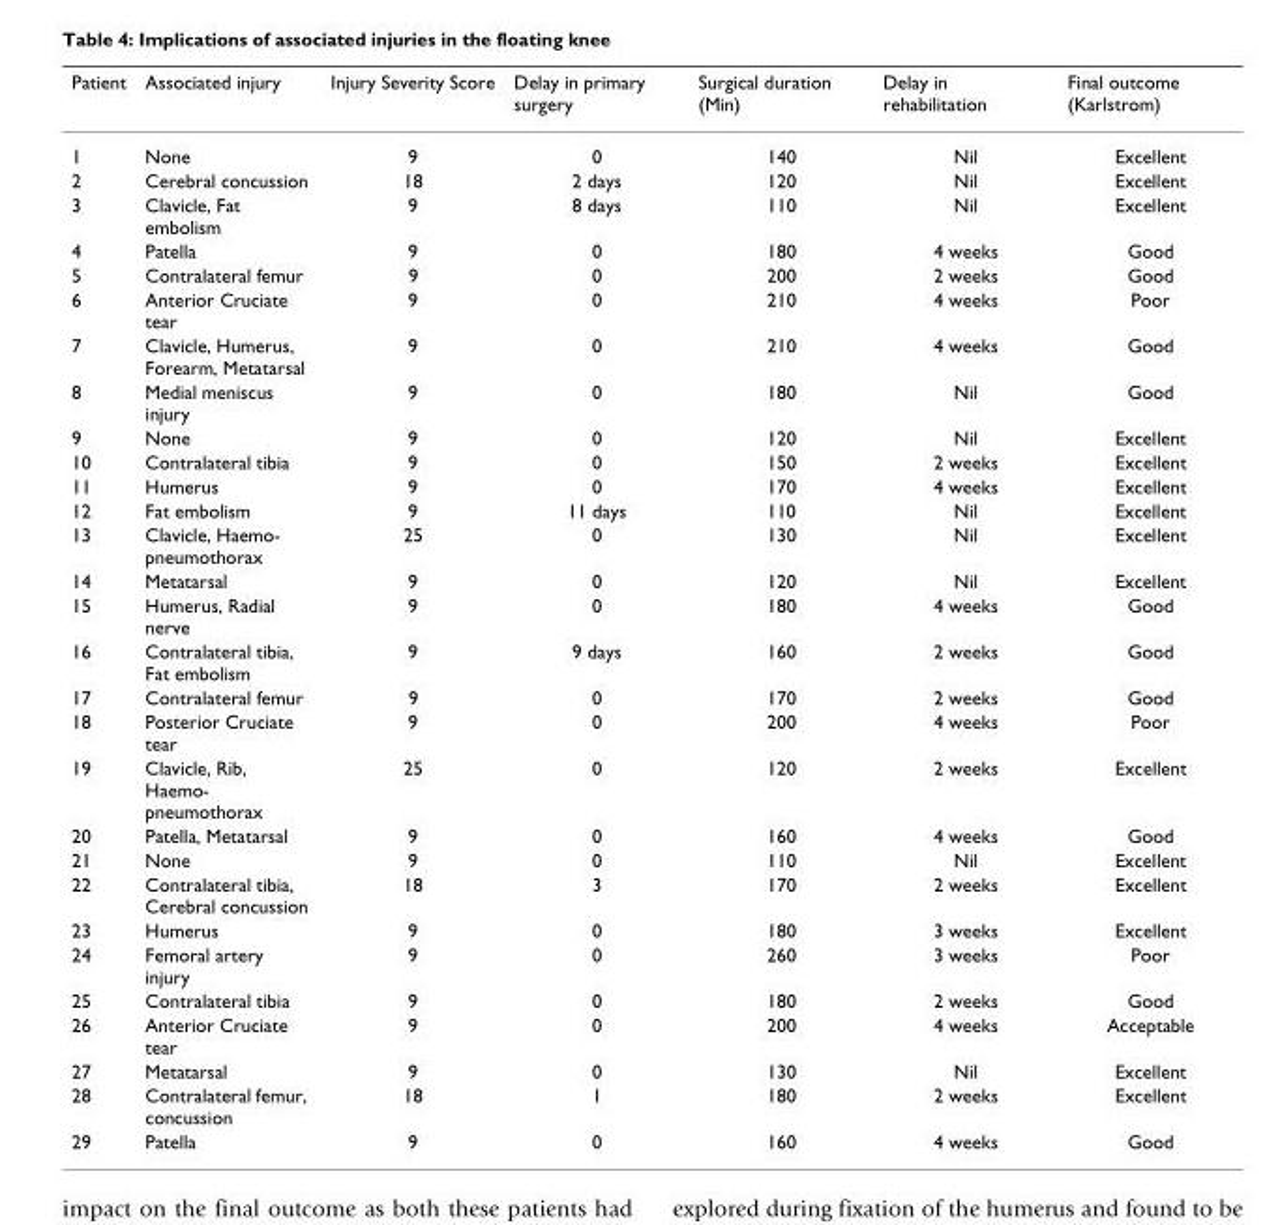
<table><thead><tr><td>Patient</td><td>Associated injury</td><td>Injury Severity Score</td><td>Delay in primary surgery</td><td>Surgical duration (Min)</td><td>Delay in rehabilitation</td><td>Final outcome (Karlstrom)</td></tr></thead><tbody><tr><td>1</td><td>None</td><td>9</td><td>0</td><td>140</td><td>Nil</td><td>Excellent</td></tr><tr><td>2</td><td>Cerebral concussion</td><td>18</td><td>2 days</td><td>120</td><td>Nil</td><td>Excellent</td></tr><tr><td>3</td><td>Clavicle, Fat embolism</td><td>9</td><td>8 days</td><td>110</td><td>Nil</td><td>Excellent</td></tr><tr><td>4</td><td>Patella</td><td>9</td><td>0</td><td>180</td><td>4 weeks</td><td>Good</td></tr><tr><td>5</td><td>Contralateral femur</td><td>9</td><td>0</td><td>200</td><td>2 weeks</td><td>Good</td></tr><tr><td>6</td><td>Anterior Cruciate tear</td><td>9</td><td>0</td><td>210</td><td>4 weeks</td><td>Poor</td></tr><tr><td>7</td><td>Clavicle, Humerus, Forearm, Metatarsal</td><td>9</td><td>0</td><td>210</td><td>4 weeks</td><td>Good</td></tr><tr><td>8</td><td>Medial meniscus injury</td><td>9</td><td>0</td><td>180</td><td>Nil</td><td>Good</td></tr><tr><td>9</td><td>None</td><td>9</td><td>0</td><td>120</td><td>Nil</td><td>Excellent</td></tr><tr><td>10</td><td>Contralateral tibia</td><td>9</td><td>0</td><td>150</td><td>2 weeks</td><td>Excellent</td></tr><tr><td>11</td><td>Humerus</td><td>9</td><td>0</td><td>170</td><td>4 weeks</td><td>Excellent</td></tr><tr><td>12</td><td>Fat embolism</td><td>9</td><td>11 days</td><td>110</td><td>Nil</td><td>Excellent</td></tr><tr><td>13</td><td>Clavicle, Haemo- pneumothorax</td><td>25</td><td>0</td><td>130</td><td>Nil</td><td>Excellent</td></tr><tr><td>14</td><td>Metatarsal</td><td>9</td><td>0</td><td>120</td><td>Nil</td><td>Excellent</td></tr><tr><td>15</td><td>Humerus, Radial nerve</td><td>9</td><td>0</td><td>180</td><td>4 weeks</td><td>Good</td></tr><tr><td>16</td><td>Contralateral tibia, Fat embolism</td><td>9</td><td>9 days</td><td>160</td><td>2 weeks</td><td>Good</td></tr><tr><td>17</td><td>Contralateral femur</td><td>9</td><td>0</td><td>170</td><td>2 weeks</td><td>Good</td></tr><tr><td>18</td><td>Posterior Cruciate tear</td><td>9</td><td>0</td><td>200</td><td>4 weeks</td><td>Poor</td></tr><tr><td>19</td><td>Clavicle, Rib, Haemo- pneumothorax</td><td>25</td><td>0</td><td>120</td><td>2 weeks</td><td>Excellent</td></tr><tr><td>20</td><td>Patella, Metatarsal</td><td>9</td><td>0</td><td>160</td><td>4 weeks</td><td>Good</td></tr><tr><td>21</td><td>None</td><td>9</td><td>0</td><td>110</td><td>Nil</td><td>Excellent</td></tr><tr><td>22</td><td>Contralateral tibia, Cerebral concussion</td><td>18</td><td>3</td><td>170</td><td>2 weeks</td><td>Excellent</td></tr><tr><td>23</td><td>Humerus</td><td>9</td><td>0</td><td>180</td><td>3 weeks</td><td>Excellent</td></tr><tr><td>24</td><td>Femoral artery injury</td><td>9</td><td>0</td><td>260</td><td>3 weeks</td><td>Poor</td></tr><tr><td>25</td><td>Contralateral tibia</td><td>9</td><td>0</td><td>180</td><td>2 weeks</td><td>Good</td></tr><tr><td>26</td><td>Anterior Cruciate tear</td><td>9</td><td>0</td><td>200</td><td>4 weeks</td><td>Acceptable</td></tr><tr><td>27</td><td>Metatarsal</td><td>9</td><td>0</td><td>130</td><td>Nil</td><td>Excellent</td></tr><tr><td>28</td><td>Contralateral femur, concussion</td><td>18</td><td>1</td><td>180</td><td>2 weeks</td><td>Excellent</td></tr><tr><td>29</td><td>Patella</td><td>9</td><td>0</td><td>160</td><td>4 weeks</td><td>Good</td></tr></tbody></table>